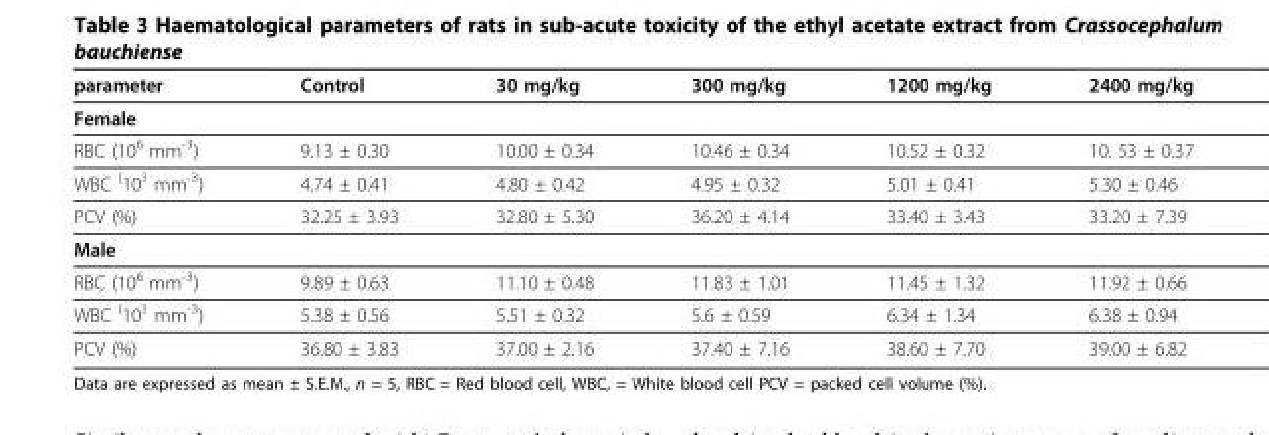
<table><thead><tr><td>parameter</td><td>Control</td><td>30 mg/kg</td><td>300 mg/kg</td><td>1200 mg/kg</td><td>2400 mg/kg</td></tr></thead><tbody><tr><td colspan="6">Female</td></tr><tr><td>RBC (10<sup>6</sup> mm<sup>-3</sup>)</td><td>9.13 ± 0.30</td><td>10.00 ± 0.34</td><td>10.46 ± 0.34</td><td>10.52 ± 0.32</td><td>10. 53 ± 0.37</td></tr><tr><td>WBC <sup>(</sup>10<sup>3</sup> mm<sup>-3</sup>)</td><td>4.74 ± 0.41</td><td>4.80 ± 0.42</td><td>4.95 ± 0.32</td><td>5.01 ± 0.41</td><td>5.30 ± 0.46</td></tr><tr><td>PCV (%)</td><td>32.25 ± 3.93</td><td>32.80 ± 5.30</td><td>36.20 ± 4.14</td><td>33.40 ± 3.43</td><td>33.20 ± 7.39</td></tr><tr><td colspan="6">Male</td></tr><tr><td>RBC (10<sup>6</sup> mm<sup>-3</sup>)</td><td>9.89 ± 0.63</td><td>11.10 ± 0.48</td><td>11.83 ± 1.01</td><td>11.45 ± 1.32</td><td>11.92 ± 0.66</td></tr><tr><td>WBC <sup>(</sup>10<sup>3</sup> mm<sup>-3</sup>)</td><td>5.38 ± 0.56</td><td>5.51 ± 0.32</td><td>5.6 ± 0.59</td><td>6.34 ± 1.34</td><td>6.38 ± 0.94</td></tr><tr><td>PCV (%)</td><td>36.80 ± 3.83</td><td>37.00 ± 2.16</td><td>37.40 ± 7.16</td><td>38.60 ± 7.70</td><td>39.00 ± 6.82</td></tr></tbody></table>